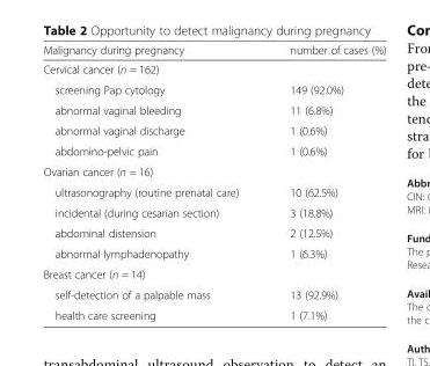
<table><thead><tr><td>Malignancy during pregnancy</td><td>number of cases (%)</td></tr></thead><tbody><tr><td colspan="2">Cervical cancer (n = 162)</td></tr><tr><td>screening Pap cytology</td><td>149 (92.0%)</td></tr><tr><td>abnormal vaginal bleeding</td><td>11 (6.8%)</td></tr><tr><td>abnormal vaginal discharge</td><td>1 (0.6%)</td></tr><tr><td>abdomino-pelvic pain</td><td>1 (0.6%)</td></tr><tr><td colspan="2">Ovarian cancer (n = 16)</td></tr><tr><td>ultrasonography (routine prenatal care)</td><td>10 (62.5%)</td></tr><tr><td>incidental (during cesarian section)</td><td>3 (18.8%)</td></tr><tr><td>abdominal distension</td><td>2 (12.5%)</td></tr><tr><td>abnormal lymphadenopathy</td><td>1 (6.3%)</td></tr><tr><td colspan="2">Breast cancer (n = 14)</td></tr><tr><td>self-detection of a palpable mass</td><td>13 (92.9%)</td></tr><tr><td>health care screening</td><td>1 (7.1%)</td></tr></tbody></table>